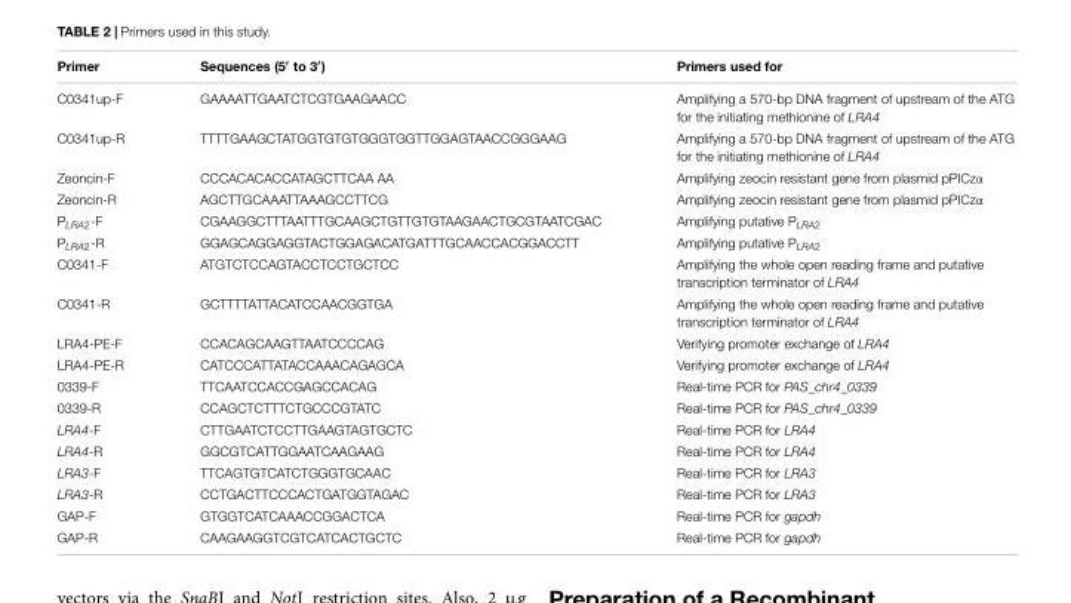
<table><thead><tr><td>Primer</td><td>Sequences (5′ to 3′)</td><td>Primers used for</td></tr></thead><tbody><tr><td>C0341up-F</td><td>GAAAATTGAATCTCGTGAAGAACC</td><td>Amplifying a 570-bp DNA fragment of upstream of the ATG for the initiating methionine of LRA4</td></tr><tr><td>C0341up-R</td><td>TTTTGAAGCTATGGTGTGTGGGTGGTTGGAGTAACCGGGAAG</td><td>Amplifying a 570-bp DNA fragment of upstream of the ATG for the initiating methionine of LRA4</td></tr><tr><td>Zeoncin-F</td><td>CCCACACACCATAGCTTCAA AA</td><td>Amplifying zeocin resistant gene from plasmid pPICzα</td></tr><tr><td>Zeoncin-R</td><td>AGCTTGCAAATTAAAGCCTTCG</td><td>Amplifying zeocin resistant gene from plasmid pPICzα</td></tr><tr><td>P<sub>LRA2</sub>-F</td><td>CGAAGGCTTTAATTTGCAAGCTGTTGTGTAAGAACTGCGTAATCGAC</td><td>Amplifying putative P<sub>LRA2</sub></td></tr><tr><td>P<sub>LRA2</sub>-R</td><td>GGAGCAGGAGGTACTGGAGACATGATTTGCAACCACGGACCTT</td><td>Amplifying putative P<sub>LRA2</sub></td></tr><tr><td>C0341-F</td><td>ATGTCTCCAGTACCTCCTGCTCC</td><td>Amplifying the whole open reading frame and putative transcription terminator of LRA4</td></tr><tr><td>C0341-R</td><td>GCTTTTATTACATCCAACGGTGA</td><td>Amplifying the whole open reading frame and putative transcription terminator of LRA4</td></tr><tr><td>LRA4-PE-F</td><td>CCACAGCAAGTTAATCCCCAG</td><td>Verifying promoter exchange of LRA4</td></tr><tr><td>LRA4-PE-R</td><td>CATCCCATTATACCAAACAGAGCA</td><td>Verifying promoter exchange of LRA4</td></tr><tr><td>0339-F</td><td>TTCAATCCACCGAGCCACAG</td><td>Real-time PCR for PAS_chr4_0339</td></tr><tr><td>0339-R</td><td>CCAGCTCTTTCTGCCCGTATC</td><td>Real-time PCR for PAS_chr4_0339</td></tr><tr><td>LRA4-F</td><td>CTTGAATCTCCTTGAAGTAGTGCTC</td><td>Real-time PCR for LRA4</td></tr><tr><td>LRA4-R</td><td>GGCGTCATTGGAATCAAGAAG</td><td>Real-time PCR for LRA4</td></tr><tr><td>LRA3-F</td><td>TTCAGTGTCATCTGGGTGCAAC</td><td>Real-time PCR for LRA3</td></tr><tr><td>LRA3-R</td><td>CCTGACTTCCCACTGATGGTAGAC</td><td>Real-time PCR for LRA3</td></tr><tr><td>GAP-F</td><td>GTGGTCATCAAACCGGACTCA</td><td>Real-time PCR for gapdh</td></tr><tr><td>GAP-R</td><td>CAAGAAGGTCGTCATCACTGCTC</td><td>Real-time PCR for gapdh</td></tr></tbody></table>